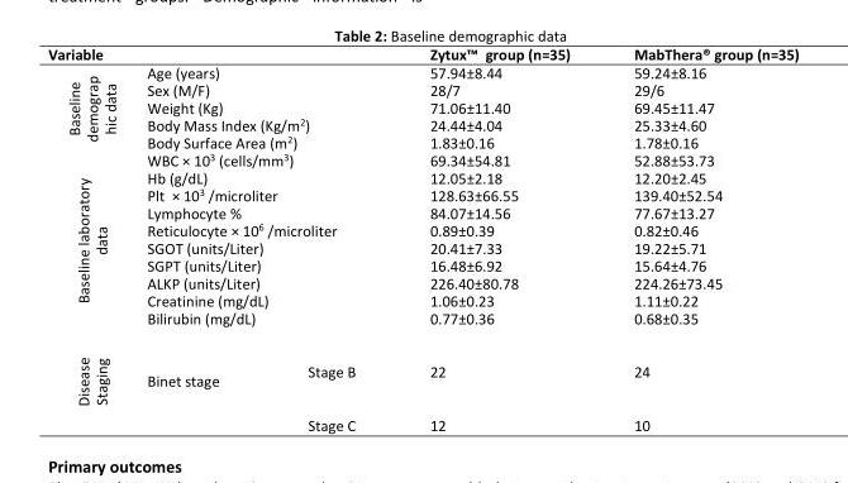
<table><thead><tr><td colspan="3">Variable</td><td>Zytux™ group (n=35)</td><td>MabThera® group (n=35)</td></tr></thead><tbody><tr><td rowspan="5">Baseline demograp hic data</td><td colspan="2">Age (years)</td><td>57.94±8.44</td><td>59.24±8.16</td></tr><tr><td colspan="2">Sex (M/F)</td><td>28/7</td><td>29/6</td></tr><tr><td colspan="2">Weight (Kg)</td><td>71.06±11.40</td><td>69.45±11.47</td></tr><tr><td colspan="2">Body Mass Index (Kg/m<sup>2</sup>)</td><td>24.44±4.04</td><td>25.33±4.60</td></tr><tr><td colspan="2">Body Surface Area (m<sup>2</sup>)</td><td>1.83±0.16</td><td>1.78±0.16</td></tr><tr><td rowspan="10">Baseline laboratory data</td><td colspan="2">WBC × 10<sup>3</sup> (cells/mm<sup>3</sup>)</td><td>69.34±54.81</td><td>52.88±53.73</td></tr><tr><td colspan="2">Hb (g/dL)</td><td>12.05±2.18</td><td>12.20±2.45</td></tr><tr><td colspan="2">Plt × 10<sup>3</sup> /microliter</td><td>128.63±66.55</td><td>139.40±52.54</td></tr><tr><td colspan="2">Lymphocyte %</td><td>84.07±14.56</td><td>77.67±13.27</td></tr><tr><td colspan="2">Reticulocyte × 10<sup>6</sup> /microliter</td><td>0.89±0.39</td><td>0.82±0.46</td></tr><tr><td colspan="2">SGOT (units/Liter)</td><td>20.41±7.33</td><td>19.22±5.71</td></tr><tr><td colspan="2">SGPT (units/Liter)</td><td>16.48±6.92</td><td>15.64±4.76</td></tr><tr><td colspan="2">ALKP (units/Liter)</td><td>226.40±80.78</td><td>224.26±73.45</td></tr><tr><td colspan="2">Creatinine (mg/dL)</td><td>1.06±0.23</td><td>1.11±0.22</td></tr><tr><td colspan="2">Bilirubin (mg/dL)</td><td>0.77±0.36</td><td>0.68±0.35</td></tr><tr><td rowspan="2">Disease Staging</td><td rowspan="2">Binet stage</td><td>Stage B</td><td>22</td><td>24</td></tr><tr><td>Stage C</td><td>12</td><td>10</td></tr></tbody></table>